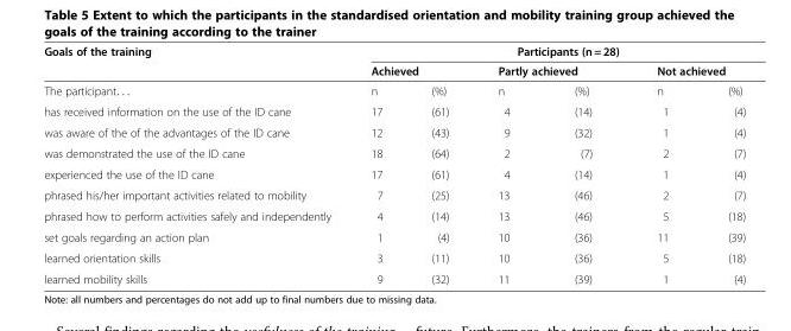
<table><thead><tr><td rowspan="3">Goals of the training The participant. . .</td><td colspan="6">Participants (n = 28)</td></tr><tr><td colspan="2">Achieved</td><td colspan="2">Partly achieved</td><td colspan="2">Not achieved</td></tr><tr><td>n</td><td>(%)</td><td>n</td><td>(%)</td><td>n</td><td>(%)</td></tr></thead><tbody><tr><td>has received information on the use of the ID cane</td><td>17</td><td>(61)</td><td>4</td><td>(14)</td><td>1</td><td>(4)</td></tr><tr><td>was aware of the of the advantages of the ID cane</td><td>12</td><td>(43)</td><td>9</td><td>(32)</td><td>1</td><td>(4)</td></tr><tr><td>was demonstrated the use of the ID cane</td><td>18</td><td>(64)</td><td>2</td><td>(7)</td><td>2</td><td>(7)</td></tr><tr><td>experienced the use of the ID cane</td><td>17</td><td>(61)</td><td>4</td><td>(14)</td><td>1</td><td>(4)</td></tr><tr><td>phrased his/her important activities related to mobility</td><td>7</td><td>(25)</td><td>13</td><td>(46)</td><td>2</td><td>(7)</td></tr><tr><td>phrased how to perform activities safely and independently</td><td>4</td><td>(14)</td><td>13</td><td>(46)</td><td>5</td><td>(18)</td></tr><tr><td>set goals regarding an action plan</td><td>1</td><td>(4)</td><td>10</td><td>(36)</td><td>11</td><td>(39)</td></tr><tr><td>learned orientation skills</td><td>3</td><td>(11)</td><td>10</td><td>(36)</td><td>5</td><td>(18)</td></tr><tr><td>learned mobility skills</td><td>9</td><td>(32)</td><td>11</td><td>(39)</td><td>1</td><td>(4)</td></tr></tbody></table>